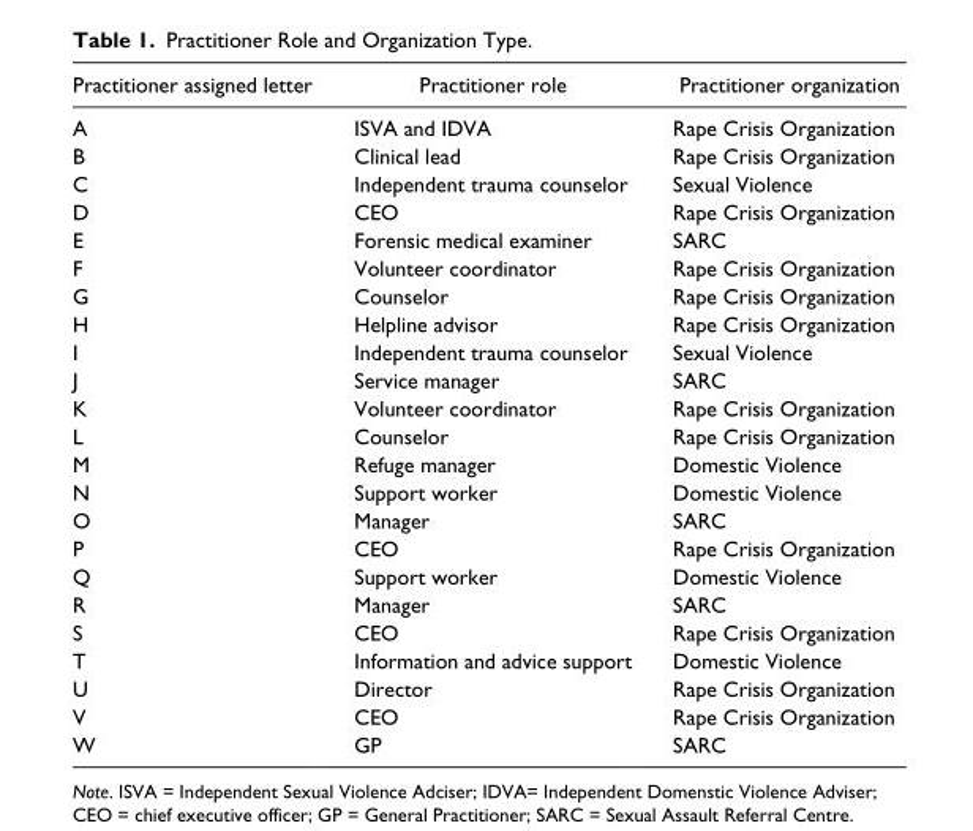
<table><thead><tr><td>Practitioner assigned letter</td><td>Practitioner role</td><td>Practitioner organization</td></tr></thead><tbody><tr><td>A</td><td>ISVA and IDVA</td><td>Rape Crisis Organization</td></tr><tr><td>B</td><td>Clinical lead</td><td>Rape Crisis Organization</td></tr><tr><td>C</td><td>Independent trauma counselor</td><td>Sexual Violence</td></tr><tr><td>D</td><td>CEO</td><td>Rape Crisis Organization</td></tr><tr><td>E</td><td>Forensic medical examiner</td><td>SARC</td></tr><tr><td>F</td><td>Volunteer coordinator</td><td>Rape Crisis Organization</td></tr><tr><td>G</td><td>Counselor</td><td>Rape Crisis Organization</td></tr><tr><td>H</td><td>Helpline advisor</td><td>Rape Crisis Organization</td></tr><tr><td>I</td><td>Independent trauma counselor</td><td>Sexual Violence</td></tr><tr><td>J</td><td>Service manager</td><td>SARC</td></tr><tr><td>K</td><td>Volunteer coordinator</td><td>Rape Crisis Organization</td></tr><tr><td>L</td><td>Counselor</td><td>Rape Crisis Organization</td></tr><tr><td>M</td><td>Refuge manager</td><td>Domestic Violence</td></tr><tr><td>N</td><td>Support worker</td><td>Domestic Violence</td></tr><tr><td>O</td><td>Manager</td><td>SARC</td></tr><tr><td>P</td><td>CEO</td><td>Rape Crisis Organization</td></tr><tr><td>Q</td><td>Support worker</td><td>Domestic Violence</td></tr><tr><td>R</td><td>Manager</td><td>SARC</td></tr><tr><td>S</td><td>CEO</td><td>Rape Crisis Organization</td></tr><tr><td>T</td><td>Information and advice support</td><td>Domestic Violence</td></tr><tr><td>U</td><td>Director</td><td>Rape Crisis Organization</td></tr><tr><td>V</td><td>CEO</td><td>Rape Crisis Organization</td></tr><tr><td>W</td><td>GP</td><td>SARC</td></tr></tbody></table>